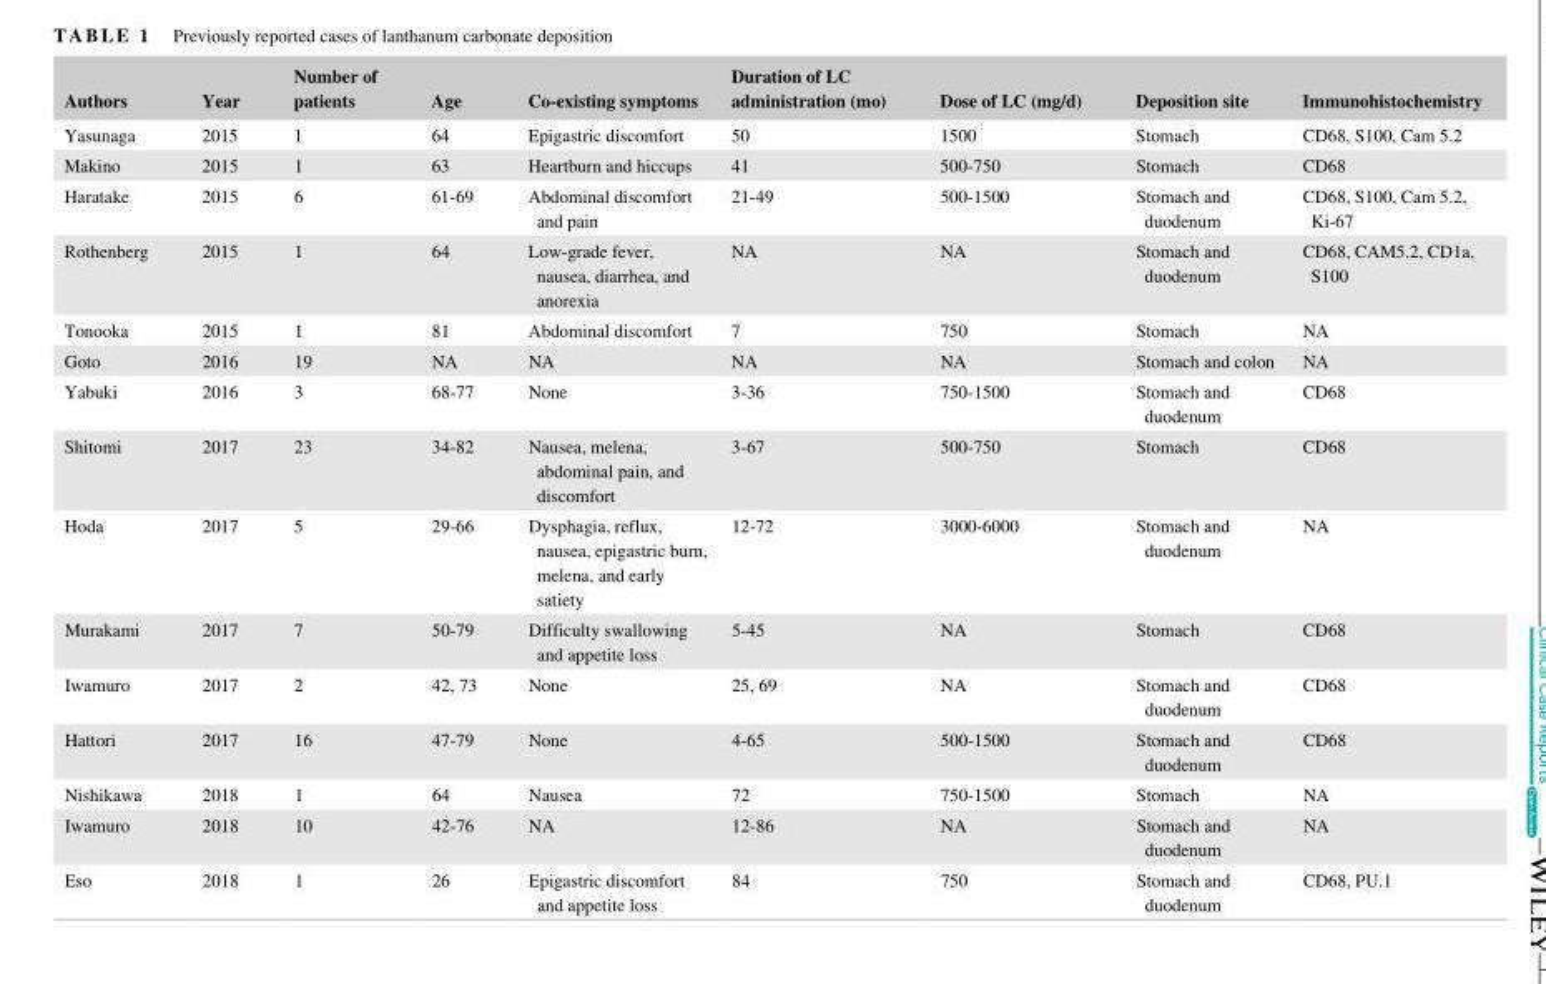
<table><thead><tr><td>Authors</td><td>Year</td><td>Number of patients</td><td>Age</td><td>Co‐existing symptoms</td><td>Duration of LC administration (mo)</td><td>Dose of LC (mg/d)</td><td>Deposition site</td><td>Immunohistochemistry</td></tr></thead><tbody><tr><td>Yasunaga</td><td>2015</td><td>1</td><td>64</td><td>Epigastric discomfort</td><td>50</td><td>1500</td><td>Stomach</td><td>CD68, S100, Cam 5.2</td></tr><tr><td>Makino</td><td>2015</td><td>1</td><td>63</td><td>Heartburn and hiccups</td><td>41</td><td>500‐750</td><td>Stomach</td><td>CD68</td></tr><tr><td>Haratake</td><td>2015</td><td>6</td><td>61‐69</td><td>Abdominal discomfort and pain</td><td>21‐49</td><td>500‐1500</td><td>Stomach and duodenum</td><td>CD68, S100, Cam 5.2, Ki‐67</td></tr><tr><td>Rothenberg</td><td>2015</td><td>1</td><td>64</td><td>Low‐grade fever, nausea, diarrhea, and anorexia</td><td>NA</td><td>NA</td><td>Stomach and duodenum</td><td>CD68, CAM5.2, CD1a, S100</td></tr><tr><td>Tonooka</td><td>2015</td><td>1</td><td>81</td><td>Abdominal discomfort</td><td>7</td><td>750</td><td>Stomach</td><td>NA</td></tr><tr><td>Goto</td><td>2016</td><td>19</td><td>NA</td><td>NA</td><td>NA</td><td>NA</td><td>Stomach and colon</td><td>NA</td></tr><tr><td>Yabuki</td><td>2016</td><td>3</td><td>68‐77</td><td>None</td><td>3‐36</td><td>750‐1500</td><td>Stomach and duodenum</td><td>CD68</td></tr><tr><td>Shitomi</td><td>2017</td><td>23</td><td>34‐82</td><td>Nausea, melena, abdominal pain, and discomfort</td><td>3‐67</td><td>500‐750</td><td>Stomach</td><td>CD68</td></tr><tr><td>Hoda</td><td>2017</td><td>5</td><td>29‐66</td><td>Dysphagia, reflux, nausea, epigastric burn, melena, and early satiety</td><td>12‐72</td><td>3000‐6000</td><td>Stomach and duodenum</td><td>NA</td></tr><tr><td>Murakami</td><td>2017</td><td>7</td><td>50‐79</td><td>Difficulty swallowing and appetite loss</td><td>5‐45</td><td>NA</td><td>Stomach</td><td>CD68</td></tr><tr><td>Iwamuro</td><td>2017</td><td>2</td><td>42, 73</td><td>None</td><td>25, 69</td><td>NA</td><td>Stomach and duodenum</td><td>CD68</td></tr><tr><td>Hattori</td><td>2017</td><td>16</td><td>47‐79</td><td>None</td><td>4‐65</td><td>500‐1500</td><td>Stomach and duodenum</td><td>CD68</td></tr><tr><td>Nishikawa</td><td>2018</td><td>1</td><td>64</td><td>Nausea</td><td>72</td><td>750‐1500</td><td>Stomach</td><td>NA</td></tr><tr><td>Iwamuro</td><td>2018</td><td>10</td><td>42‐76</td><td>NA</td><td>12‐86</td><td>NA</td><td>Stomach and duodenum</td><td>NA</td></tr><tr><td>Eso</td><td>2018</td><td>1</td><td>26</td><td>Epigastric discomfort and appetite loss</td><td>84</td><td>750</td><td>Stomach and duodenum</td><td>CD68, PU.1</td></tr></tbody></table>